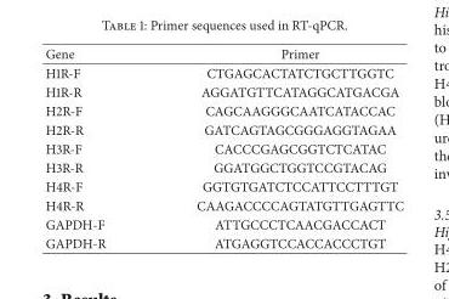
<table><thead><tr><td>Gene</td><td>Primer</td></tr></thead><tbody><tr><td>H1R-F</td><td>CTGAGCACTATCTGCTTGGTC</td></tr><tr><td>H1R-R</td><td>AGGATGTTCATAGGCATGACGA</td></tr><tr><td>H2R-F</td><td>CAGCAAGGGCAATCATACCAC</td></tr><tr><td>H2R-R</td><td>GATCAGTAGCGGGAGGTAGAA</td></tr><tr><td>H3R-F</td><td>CACCCGAGCGGTCTCATAC</td></tr><tr><td>H3R-R</td><td>GGATGGCTGGTCCGTACAG</td></tr><tr><td>H4R-F</td><td>GGTGTGATCTCCATTCCTTTGT</td></tr><tr><td>H4R-R</td><td>CAAGACCCCAGTATGTTGAGTTC</td></tr><tr><td>GAPDH-F</td><td>ATTGCCCTCAACGACCACT</td></tr><tr><td>GAPDH-R</td><td>ATGAGGTCCACCACCCTGT</td></tr></tbody></table>